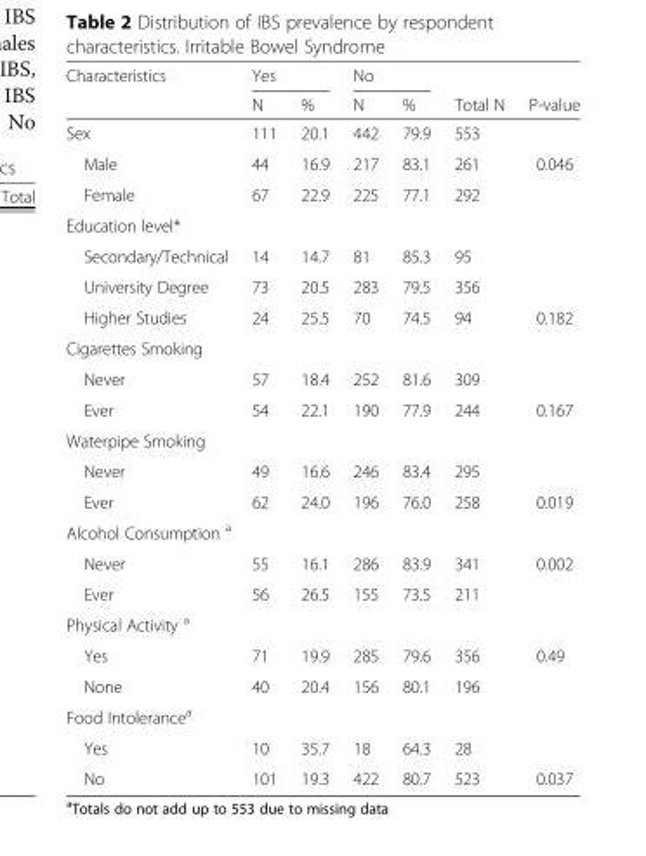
<table><thead><tr><td rowspan="2">Characteristics</td><td colspan="2">Yes</td><td colspan="2">No</td><td rowspan="2">Total N</td><td rowspan="2">P-value</td></tr><tr><td>N</td><td>%</td><td>N</td><td>%</td></tr></thead><tbody><tr><td>Sex</td><td>111</td><td>20.1</td><td>442</td><td>79.9</td><td>553</td><td></td></tr><tr><td>Male</td><td>44</td><td>16.9</td><td>217</td><td>83.1</td><td>261</td><td>0.046</td></tr><tr><td>Female</td><td>67</td><td>22.9</td><td>225</td><td>77.1</td><td>292</td><td></td></tr><tr><td colspan="7">Education level*</td></tr><tr><td>Secondary/Technical</td><td>14</td><td>14.7</td><td>81</td><td>85.3</td><td>95</td><td rowspan="2"></td></tr><tr><td>University Degree</td><td>73</td><td>20.5</td><td>283</td><td>79.5</td><td>356</td></tr><tr><td>Higher Studies</td><td>24</td><td>25.5</td><td>70</td><td>74.5</td><td>94</td><td>0.182</td></tr><tr><td colspan="7">Cigarettes Smoking</td></tr><tr><td>Never</td><td>57</td><td>18.4</td><td>252</td><td>81.6</td><td>309</td><td></td></tr><tr><td>Ever</td><td>54</td><td>22.1</td><td>190</td><td>77.9</td><td>244</td><td>0.167</td></tr><tr><td colspan="7">Waterpipe Smoking</td></tr><tr><td>Never</td><td>49</td><td>16.6</td><td>246</td><td>83.4</td><td>295</td><td></td></tr><tr><td>Ever</td><td>62</td><td>24.0</td><td>196</td><td>76.0</td><td>258</td><td>0.019</td></tr><tr><td colspan="7">Alcohol Consumption <sup>a</sup></td></tr><tr><td>Never</td><td>55</td><td>16.1</td><td>286</td><td>83.9</td><td>341</td><td>0.002</td></tr><tr><td>Ever</td><td>56</td><td>26.5</td><td>155</td><td>73.5</td><td>211</td><td></td></tr><tr><td colspan="7">Physical Activity <sup>a</sup></td></tr><tr><td>Yes</td><td>71</td><td>19.9</td><td>285</td><td>79.6</td><td>356</td><td>0.49</td></tr><tr><td>None</td><td>40</td><td>20.4</td><td>156</td><td>80.1</td><td>196</td><td></td></tr><tr><td colspan="7">Food Intolerance<sup>a</sup></td></tr><tr><td>Yes</td><td>10</td><td>35.7</td><td>18</td><td>64.3</td><td>28</td><td></td></tr><tr><td>No</td><td>101</td><td>19.3</td><td>422</td><td>80.7</td><td>523</td><td>0.037</td></tr></tbody></table>